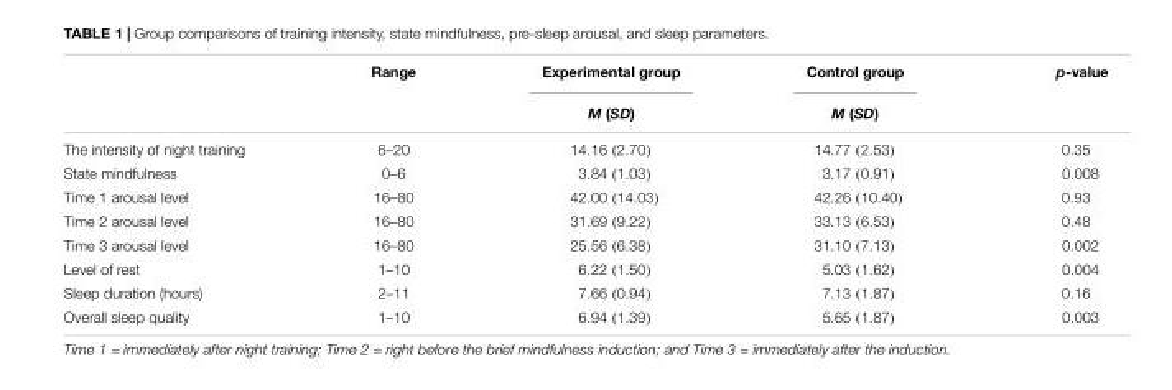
<table><thead><tr><td rowspan="2"></td><td rowspan="2">Range</td><td rowspan="2">Experimental group M (SD)</td><td rowspan="2">Control group M (SD)</td><td rowspan="2">p-value</td></tr><tr></tr></thead><tbody><tr><td>The intensity of night training</td><td>6–20</td><td>14.16 (2.70)</td><td>14.77 (2.53)</td><td>0.35</td></tr><tr><td>State mindfulness</td><td>0–6</td><td>3.84 (1.03)</td><td>3.17 (0.91)</td><td>0.008</td></tr><tr><td>Time 1 arousal level</td><td>16–80</td><td>42.00 (14.03)</td><td>42.26 (10.40)</td><td>0.93</td></tr><tr><td>Time 2 arousal level</td><td>16–80</td><td>31.69 (9.22)</td><td>33.13 (6.53)</td><td>0.48</td></tr><tr><td>Time 3 arousal level</td><td>16–80</td><td>25.56 (6.38)</td><td>31.10 (7.13)</td><td>0.002</td></tr><tr><td>Level of rest</td><td>1–10</td><td>6.22 (1.50)</td><td>5.03 (1.62)</td><td>0.004</td></tr><tr><td>Sleep duration (hours)</td><td>2–11</td><td>7.66 (0.94)</td><td>7.13 (1.87)</td><td>0.16</td></tr><tr><td>Overall sleep quality</td><td>1–10</td><td>6.94 (1.39)</td><td>5.65 (1.87)</td><td>0.003</td></tr></tbody></table>